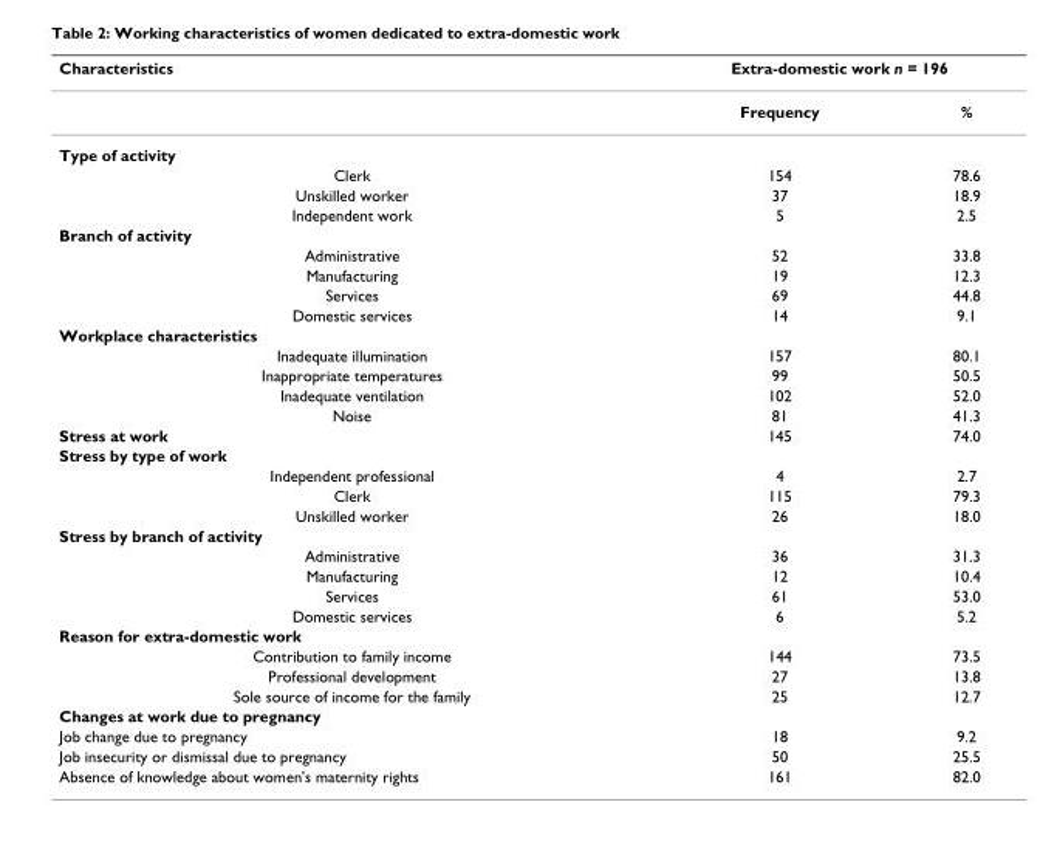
<table><thead><tr><td rowspan="2">Characteristics</td><td colspan="2">Extra-domestic work n = 196</td></tr><tr><td>Frequency</td><td>%</td></tr></thead><tbody><tr><td colspan="3">Type of activity</td></tr><tr><td>Clerk</td><td>154</td><td>78.6</td></tr><tr><td>Unskilled worker</td><td>37</td><td>18.9</td></tr><tr><td>Independent work</td><td>5</td><td>2.5</td></tr><tr><td colspan="3">Branch of activity</td></tr><tr><td>Administrative</td><td>52</td><td>33.8</td></tr><tr><td>Manufacturing</td><td>19</td><td>12.3</td></tr><tr><td>Services</td><td>69</td><td>44.8</td></tr><tr><td>Domestic services</td><td>14</td><td>9.1</td></tr><tr><td colspan="3">Workplace characteristics</td></tr><tr><td>Inadequate illumination</td><td>157</td><td>80.1</td></tr><tr><td>Inappropriate temperatures</td><td>99</td><td>50.5</td></tr><tr><td>Inadequate ventilation</td><td>102</td><td>52.0</td></tr><tr><td>Noise</td><td>81</td><td>41.3</td></tr><tr><td>Stress at work</td><td>145</td><td>74.0</td></tr><tr><td colspan="3">Stress by type of work</td></tr><tr><td>Independent professional</td><td>4</td><td>2.7</td></tr><tr><td>Clerk</td><td>115</td><td>79.3</td></tr><tr><td>Unskilled worker</td><td>26</td><td>18.0</td></tr><tr><td colspan="3">Stress by branch of activity</td></tr><tr><td>Administrative</td><td>36</td><td>31.3</td></tr><tr><td>Manufacturing</td><td>12</td><td>10.4</td></tr><tr><td>Services</td><td>61</td><td>53.0</td></tr><tr><td>Domestic services</td><td>6</td><td>5.2</td></tr><tr><td colspan="3">Reason for extra-domestic work</td></tr><tr><td>Contribution to family income</td><td>144</td><td>73.5</td></tr><tr><td>Professional development</td><td>27</td><td>13.8</td></tr><tr><td>Sole source of income for the family</td><td>25</td><td>12.7</td></tr><tr><td colspan="3">Changes at work due to pregnancy</td></tr><tr><td>Job change due to pregnancy</td><td>18</td><td>9.2</td></tr><tr><td>Job insecurity or dismissal due to pregnancy</td><td>50</td><td>25.5</td></tr><tr><td>Absence of knowledge about women&#x27;s maternity rights</td><td>161</td><td>82.0</td></tr></tbody></table>